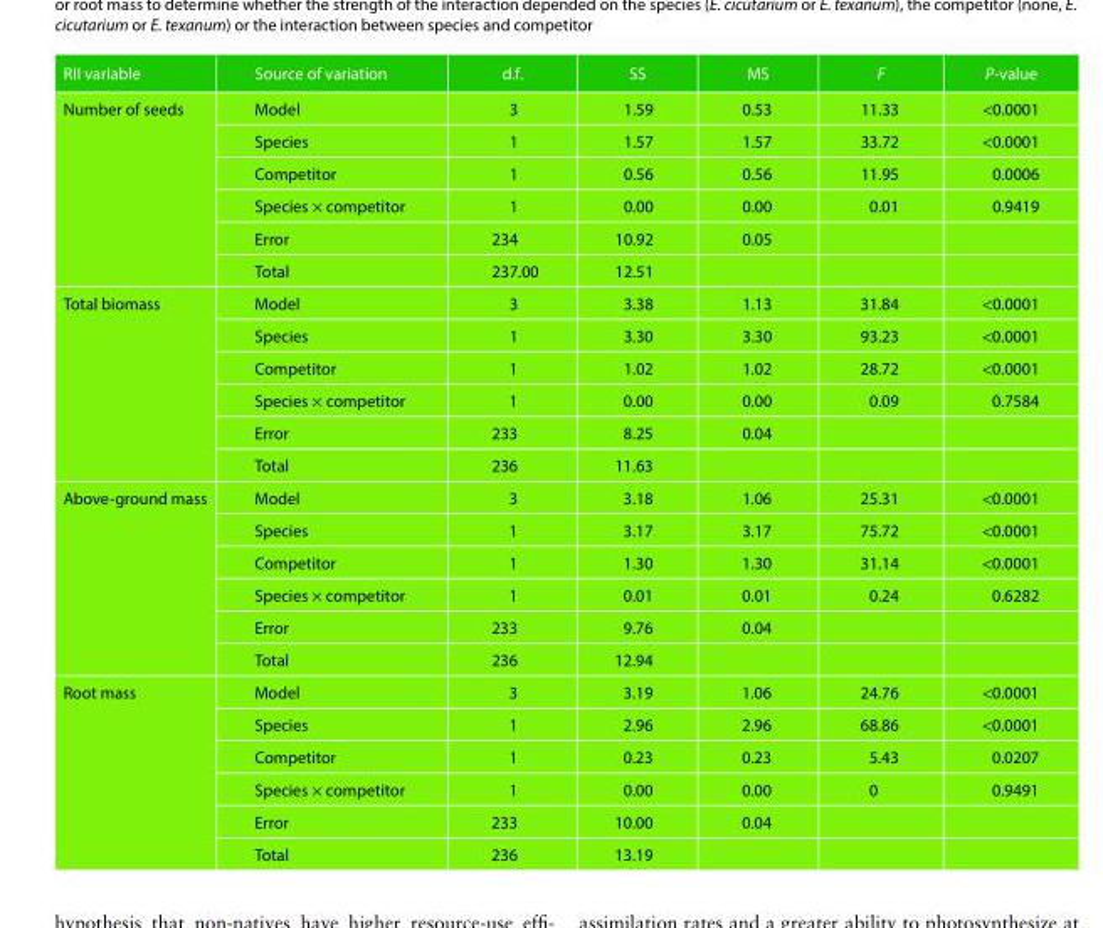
<table><thead><tr><td>RII variable</td><td>Source of variation</td><td>d.f.</td><td>SS</td><td>MS</td><td>F</td><td>P-value</td></tr></thead><tbody><tr><td rowspan="6">Number of seeds</td><td>Model</td><td>3</td><td>1.59</td><td>0.53</td><td>11.33</td><td>&lt;0.0001</td></tr><tr><td>Species</td><td>1</td><td>1.57</td><td>1.57</td><td>33.72</td><td>&lt;0.0001</td></tr><tr><td>Competitor</td><td>1</td><td>0.56</td><td>0.56</td><td>11.95</td><td>0.0006</td></tr><tr><td>Species × competitor</td><td>1</td><td>0.00</td><td>0.00</td><td>0.01</td><td>0.9419</td></tr><tr><td>Error</td><td>234</td><td>10.92</td><td>0.05</td><td></td><td></td></tr><tr><td>Total</td><td>237.00</td><td>12.51</td><td></td><td></td><td></td></tr><tr><td rowspan="6">Total biomass</td><td>Model</td><td>3</td><td>3.38</td><td>1.13</td><td>31.84</td><td>&lt;0.0001</td></tr><tr><td>Species</td><td>1</td><td>3.30</td><td>3.30</td><td>93.23</td><td>&lt;0.0001</td></tr><tr><td>Competitor</td><td>1</td><td>1.02</td><td>1.02</td><td>28.72</td><td>&lt;0.0001</td></tr><tr><td>Species × competitor</td><td>1</td><td>0.00</td><td>0.00</td><td>0.09</td><td>0.7584</td></tr><tr><td>Error</td><td>233</td><td>8.25</td><td>0.04</td><td></td><td></td></tr><tr><td>Total</td><td>236</td><td>11.63</td><td></td><td></td><td></td></tr><tr><td rowspan="6">Above-ground mass</td><td>Model</td><td>3</td><td>3.18</td><td>1.06</td><td>25.31</td><td>&lt;0.0001</td></tr><tr><td>Species</td><td>1</td><td>3.17</td><td>3.17</td><td>75.72</td><td>&lt;0.0001</td></tr><tr><td>Competitor</td><td>1</td><td>1.30</td><td>1.30</td><td>31.14</td><td>&lt;0.0001</td></tr><tr><td>Species × competitor</td><td>1</td><td>0.01</td><td>0.01</td><td>0.24</td><td>0.6282</td></tr><tr><td>Error</td><td>233</td><td>9.76</td><td>0.04</td><td></td><td></td></tr><tr><td>Total</td><td>236</td><td>12.94</td><td></td><td></td><td></td></tr><tr><td rowspan="6">Root mass</td><td>Model</td><td>3</td><td>3.19</td><td>1.06</td><td>24.76</td><td>&lt;0.0001</td></tr><tr><td>Species</td><td>1</td><td>2.96</td><td>2.96</td><td>68.86</td><td>&lt;0.0001</td></tr><tr><td>Competitor</td><td>1</td><td>0.23</td><td>0.23</td><td>5.43</td><td>0.0207</td></tr><tr><td>Species × competitor</td><td>1</td><td>0.00</td><td>0.00</td><td>0</td><td>0.9491</td></tr><tr><td>Error</td><td>233</td><td>10.00</td><td>0.04</td><td></td><td></td></tr><tr><td>Total</td><td>236</td><td>13.19</td><td></td><td></td><td></td></tr></tbody></table>